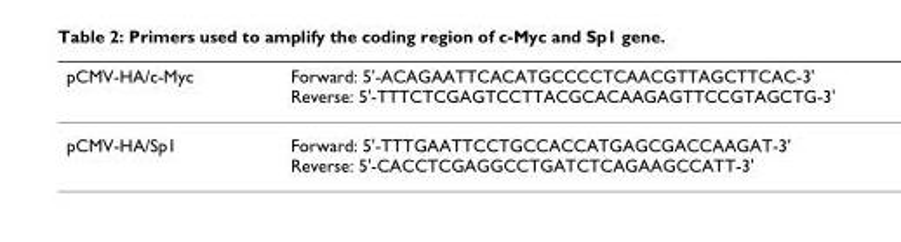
<table><thead><tr><td>pCMV-HA/c-Myc</td><td>Forward: 5&#x27;-ACAGAATTCACATGCCCCTCAACGTTAGCTTCAC-3&#x27; Reverse: 5&#x27;-TTTCTCGAGTCCTTACGCACAAGAGTTCCGTAGCTG-3&#x27;</td></tr></thead><tbody><tr><td>pCMV-HA/Sp1</td><td>Forward: 5&#x27;-TTTGAATTCCTGCCACCATGAGCGACCAAGAT-3&#x27; Reverse: 5&#x27;-CACCTCGAGGCCTGATCTCAGAAGCCATT-3&#x27;</td></tr></tbody></table>